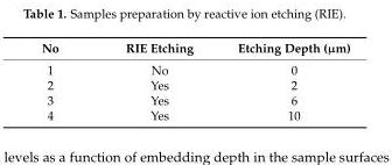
<table><thead><tr><td>No</td><td>RIE Etching</td><td>Etching Depth (µm)</td></tr></thead><tbody><tr><td>1</td><td>No</td><td>0</td></tr><tr><td>2</td><td>Yes</td><td>2</td></tr><tr><td>3</td><td>Yes</td><td>6</td></tr><tr><td>4</td><td>Yes</td><td>10</td></tr></tbody></table>